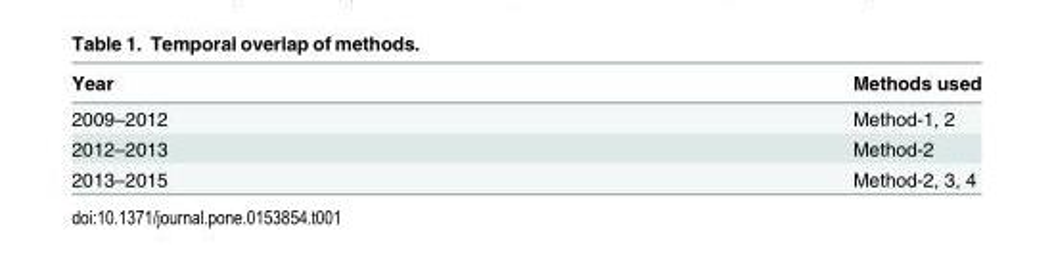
<table><thead><tr><td>Year</td><td>Methods used</td></tr></thead><tbody><tr><td>2009–2012</td><td>Method-1, 2</td></tr><tr><td>2012–2013</td><td>Method-2</td></tr><tr><td>2013–2015</td><td>Method-2, 3, 4</td></tr></tbody></table>